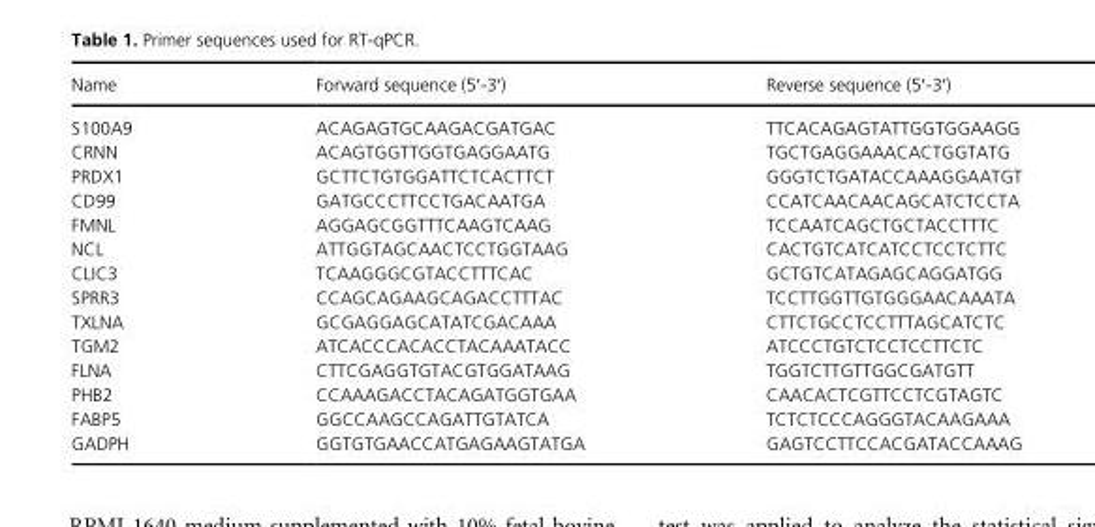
<table><thead><tr><td>Name</td><td>Forward sequence (5′- 3′)</td><td>Reverse sequence (5′- 3′)</td></tr></thead><tbody><tr><td>S100A9</td><td>ACAGAGTGCAAGACGATGAC</td><td>TTCACAGAGTATTGGTGGAAGG</td></tr><tr><td>CRNN</td><td>ACAGTGGTTGGTGAGGAATG</td><td>TGCTGAGGAAACACTGGTATG</td></tr><tr><td>PRDX1</td><td>GCTTCTGTGGATTCTCACTTCT</td><td>GGGTCTGATACCAAAGGAATGT</td></tr><tr><td>CD99</td><td>GATGCCCTTCCTGACAATGA</td><td>CCATCAACAACAGCATCTCCTA</td></tr><tr><td>FMNL</td><td>AGGAGCGGTTTCAAGTCAAG</td><td>TCCAATCAGCTGCTACCTTTC</td></tr><tr><td>NCL</td><td>ATTGGTAGCAACTCCTGGTAAG</td><td>CACTGTCATCATCCTCCTCTTC</td></tr><tr><td>CLIC3</td><td>TCAAGGGCGTACCTTTCAC</td><td>GCTGTCATAGAGCAGGATGG</td></tr><tr><td>SPRR3</td><td>CCAGCAGAAGCAGACCTTTAC</td><td>TCCTTGGTTGTGGGAACAAATA</td></tr><tr><td>TXLNA</td><td>GCGAGGAGCATATCGACAAA</td><td>CTTCTGCCTCCTTTAGCATCTC</td></tr><tr><td>TGM2</td><td>ATCACCCACACCTACAAATACC</td><td>ATCCCTGTCTCCTCCTTCTC</td></tr><tr><td>FLNA</td><td>CTTCGAGGTGTACGTGGATAAG</td><td>TGGTCTTGTTGGCGATGTT</td></tr><tr><td>PHB2</td><td>CCAAAGACCTACAGATGGTGAA</td><td>CAACACTCGTTCCTCGTAGTC</td></tr><tr><td>FABP5</td><td>GGCCAAGCCAGATTGTATCA</td><td>TCTCTCCCAGGGTACAAGAAA</td></tr><tr><td>GADPH</td><td>GGTGTGAACCATGAGAAGTATGA</td><td>GAGTCCTTCCACGATACCAAAG</td></tr></tbody></table>